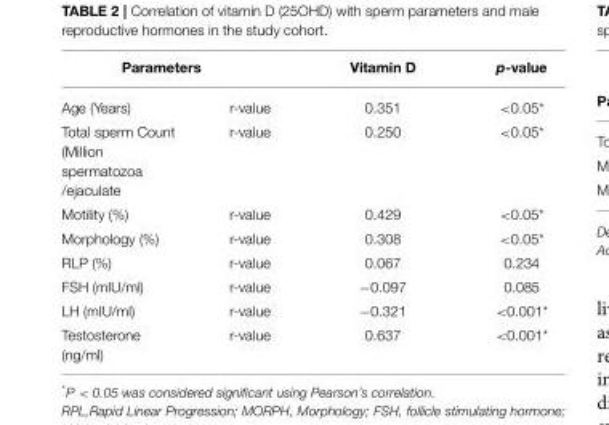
<table><thead><tr><td colspan="2">Parameters</td><td rowspan="2">Vitamin D 0.351</td><td rowspan="2">p-value &lt;0.05*</td></tr><tr><td>Age (Years)</td><td>r-value</td></tr></thead><tbody><tr><td>Total sperm Count (Million spermatozoa /ejaculate</td><td>r-value</td><td>0.250</td><td>&lt;0.05*</td></tr><tr><td>Motility (%)</td><td>r-value</td><td>0.429</td><td>&lt;0.05*</td></tr><tr><td>Morphology (%)</td><td>r-value</td><td>0.308</td><td>&lt;0.05*</td></tr><tr><td>RLP (%)</td><td>r-value</td><td>0.067</td><td>0.234</td></tr><tr><td>FSH (mIU/ml)</td><td>r-value</td><td>−0.097</td><td>0.085</td></tr><tr><td>LH (mIU/ml)</td><td>r-value</td><td>−0.321</td><td>&lt;0.001*</td></tr><tr><td>Testosterone (ng/ml)</td><td>r-value</td><td>0.637</td><td>&lt;0.001*</td></tr></tbody></table>